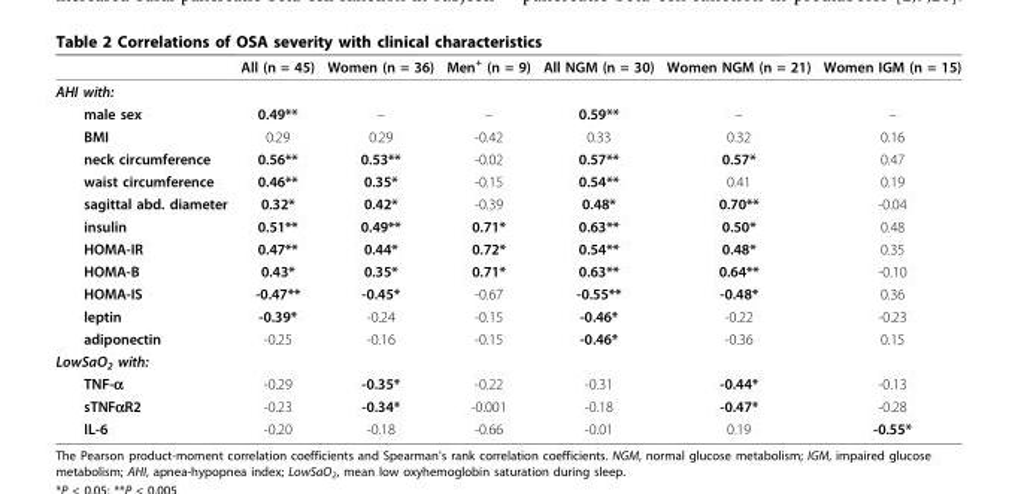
<table><thead><tr><td></td><td>All (n = 45)</td><td>Women (n = 36)</td><td>Men<sup>+</sup> (n = 9)</td><td>All NGM (n = 30)</td><td>Women NGM (n = 21)</td><td>Women IGM (n = 15)</td></tr></thead><tbody><tr><td colspan="7">AHI with:</td></tr><tr><td>male sex</td><td>0.49**</td><td>–</td><td>–</td><td>0.59**</td><td>–</td><td>–</td></tr><tr><td>BMI</td><td>0.29</td><td>0.29</td><td>-0.42</td><td>0.33</td><td>0.32</td><td>0.16</td></tr><tr><td>neck circumference</td><td>0.56**</td><td>0.53**</td><td>-0.02</td><td>0.57**</td><td>0.57*</td><td>0.47</td></tr><tr><td>waist circumference</td><td>0.46**</td><td>0.35*</td><td>-0.15</td><td>0.54**</td><td>0.41</td><td>0.19</td></tr><tr><td>sagittal abd. diameter</td><td>0.32*</td><td>0.42*</td><td>-0.39</td><td>0.48*</td><td>0.70**</td><td>-0.04</td></tr><tr><td>insulin</td><td>0.51**</td><td>0.49**</td><td>0.71*</td><td>0.63**</td><td>0.50*</td><td>0.48</td></tr><tr><td>HOMA-IR</td><td>0.47**</td><td>0.44*</td><td>0.72*</td><td>0.54**</td><td>0.48*</td><td>0.35</td></tr><tr><td>HOMA-B</td><td>0.43*</td><td>0.35*</td><td>0.71*</td><td>0.63**</td><td>0.64**</td><td>-0.10</td></tr><tr><td>HOMA-IS</td><td>-0.47**</td><td>-0.45*</td><td>-0.67</td><td>-0.55**</td><td>-0.48*</td><td>0.36</td></tr><tr><td>leptin</td><td>-0.39*</td><td>-0.24</td><td>-0.15</td><td>-0.46*</td><td>-0.22</td><td>-0.23</td></tr><tr><td>adiponectin</td><td>-0.25</td><td>-0.16</td><td>-0.15</td><td>-0.46*</td><td>-0.36</td><td>0.15</td></tr><tr><td colspan="7">LowSaO<sub>2</sub> with:</td></tr><tr><td>TNF-α</td><td>-0.29</td><td>-0.35*</td><td>-0.22</td><td>-0.31</td><td>-0.44*</td><td>-0.13</td></tr><tr><td>sTNFαR2</td><td>-0.23</td><td>-0.34*</td><td>-0.001</td><td>-0.18</td><td>-0.47*</td><td>-0.28</td></tr><tr><td>IL-6</td><td>-0.20</td><td>-0.18</td><td>-0.66</td><td>-0.01</td><td>0.19</td><td>-0.55*</td></tr></tbody></table>